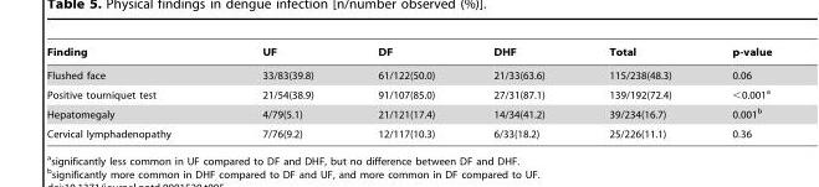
<table><thead><tr><td>Finding</td><td>UF</td><td>DF</td><td>DHF</td><td>Total</td><td>p-value</td></tr></thead><tbody><tr><td>Flushed face</td><td>33/83(39.8)</td><td>61/122(50.0)</td><td>21/33(63.6)</td><td>115/238(48.3)</td><td>0.06</td></tr><tr><td>Positive tourniquet test</td><td>21/54(38.9)</td><td>91/107(85.0)</td><td>27/31(87.1)</td><td>139/192(72.4)</td><td>&lt;0.001<sup>a</sup></td></tr><tr><td>Hepatomegaly</td><td>4/79(5.1)</td><td>21/121(17.4)</td><td>14/34(41.2)</td><td>39/234(16.7)</td><td>0.001<sup>b</sup></td></tr><tr><td>Cervical lymphadenopathy</td><td>7/76(9.2)</td><td>12/117(10.3)</td><td>6/33(18.2)</td><td>25/226(11.1)</td><td>0.36</td></tr></tbody></table>